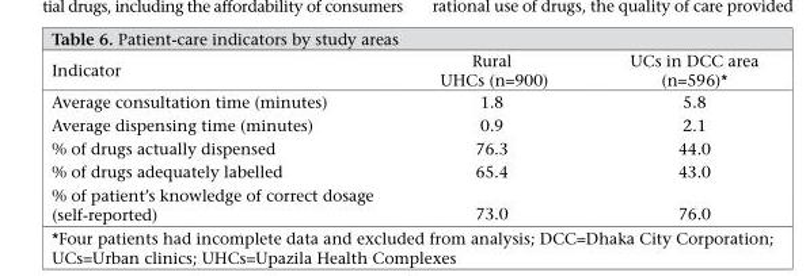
<table><thead><tr><td>Indicator</td><td>Rural UHCs (n=900)</td><td>UCs in DCC area (n=596)*</td></tr></thead><tbody><tr><td>Average consultation time (minutes)</td><td>1.8</td><td>5.8</td></tr><tr><td>Average dispensing time (minutes)</td><td>0.9</td><td>2.1</td></tr><tr><td>% of drugs actually dispensed</td><td>76.3</td><td>44.0</td></tr><tr><td>% of drugs adequately labelled</td><td>65.4</td><td>43.0</td></tr><tr><td>% of patient’s knowledge of correct dosage (self-reported)</td><td>73.0</td><td>76.0</td></tr></tbody></table>